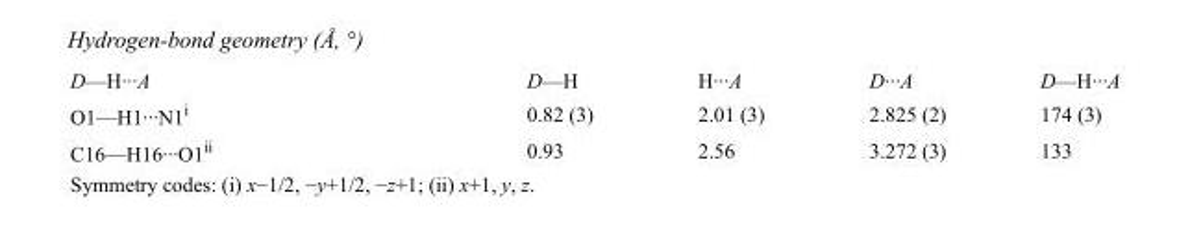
<table><tbody><tr><td>D—H···A</td><td>D—H</td><td>H···A</td><td>D···A</td><td>D—H···A</td></tr><tr><td>O1—H1···N1<sup>i</sup></td><td>0.82 (3)</td><td>2.01 (3)</td><td>2.825 (2)</td><td>174 (3)</td></tr><tr><td>C16—H16···O1<sup>ii</sup></td><td>0.93</td><td>2.56</td><td>3.272 (3)</td><td>133</td></tr></tbody></table>